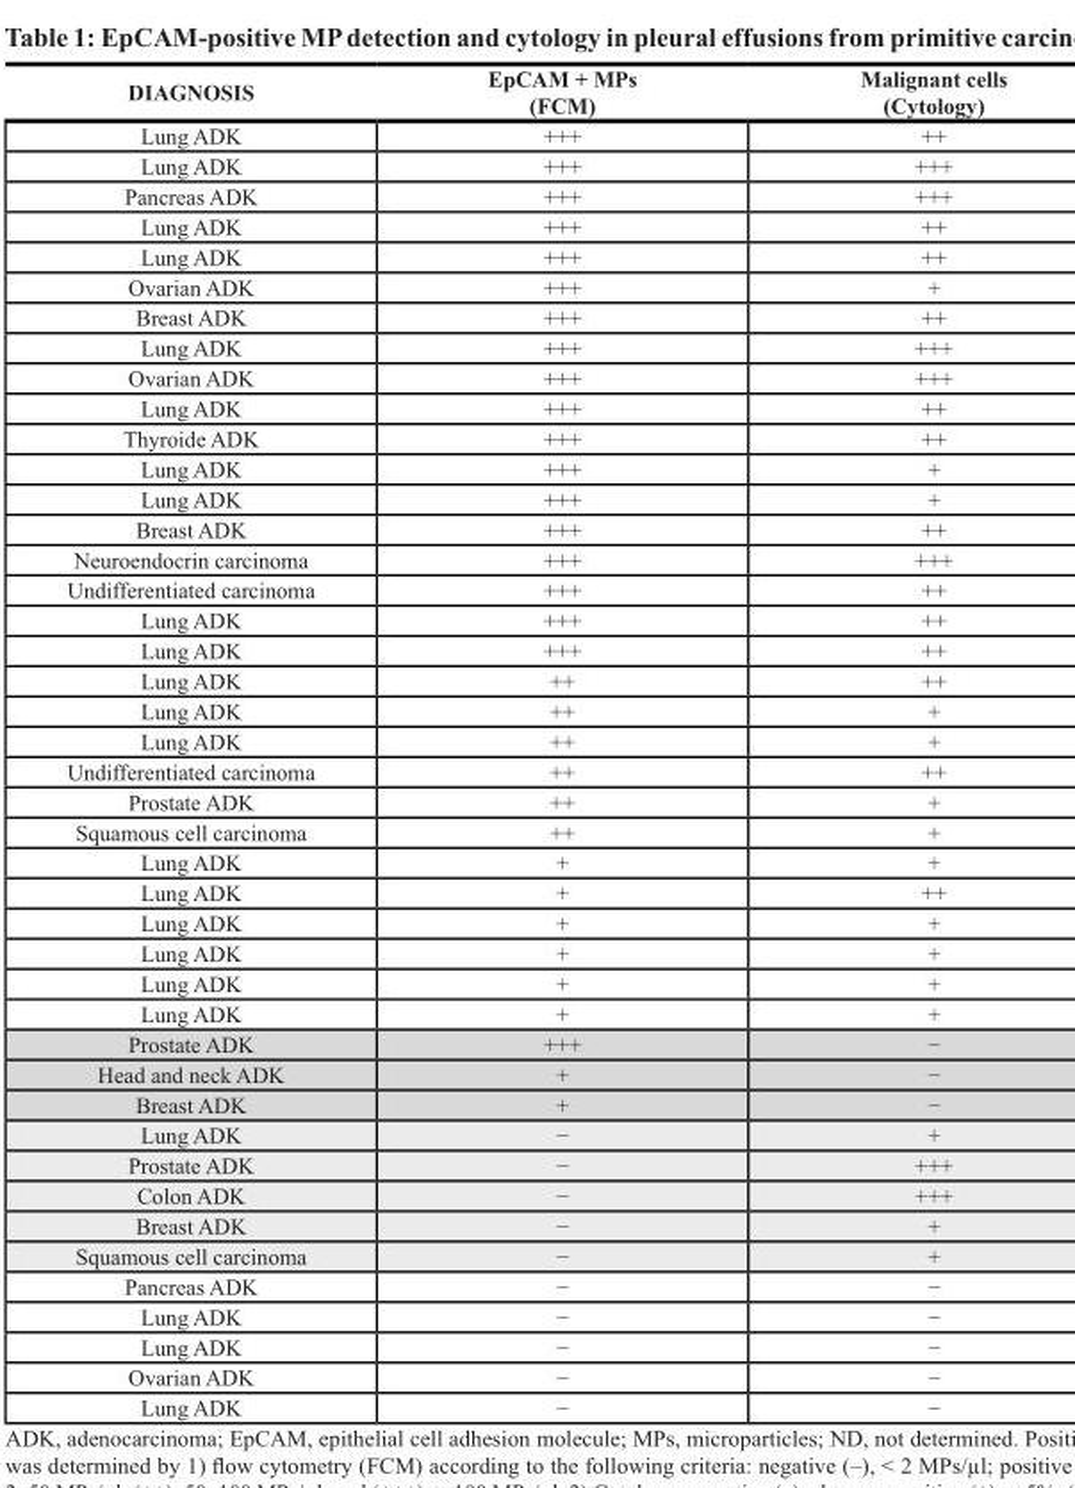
<table><thead><tr><td>DIAGNOSIS</td><td>EpCAM + MPs (FCM)</td><td>Malignant cells (Cytology)</td></tr></thead><tbody><tr><td>Lung ADK</td><td>+++</td><td>++</td></tr><tr><td>Lung ADK</td><td>+++</td><td>+++</td></tr><tr><td>Pancreas ADK</td><td>+++</td><td>+++</td></tr><tr><td>Lung ADK</td><td>+++</td><td>++</td></tr><tr><td>Lung ADK</td><td>+++</td><td>++</td></tr><tr><td>Ovarian ADK</td><td>+++</td><td>+</td></tr><tr><td>Breast ADK</td><td>+++</td><td>++</td></tr><tr><td>Lung ADK</td><td>+++</td><td>+++</td></tr><tr><td>Ovarian ADK</td><td>+++</td><td>+++</td></tr><tr><td>Lung ADK</td><td>+++</td><td>++</td></tr><tr><td>Thyroide ADK</td><td>+++</td><td>++</td></tr><tr><td>Lung ADK</td><td>+++</td><td>+</td></tr><tr><td>Lung ADK</td><td>+++</td><td>+</td></tr><tr><td>Breast ADK</td><td>+++</td><td>++</td></tr><tr><td>Neuroendocrin carcinoma</td><td>+++</td><td>+++</td></tr><tr><td>Undifferentiated carcinoma</td><td>+++</td><td>++</td></tr><tr><td>Lung ADK</td><td>+++</td><td>++</td></tr><tr><td>Lung ADK</td><td>+++</td><td>++</td></tr><tr><td>Lung ADK</td><td>++</td><td>++</td></tr><tr><td>Lung ADK</td><td>++</td><td>+</td></tr><tr><td>Lung ADK</td><td>++</td><td>+</td></tr><tr><td>Undifferentiated carcinoma</td><td>++</td><td>++</td></tr><tr><td>Prostate ADK</td><td>++</td><td>+</td></tr><tr><td>Squamous cell carcinoma</td><td>++</td><td>+</td></tr><tr><td>Lung ADK</td><td>+</td><td>+</td></tr><tr><td>Lung ADK</td><td>+</td><td>++</td></tr><tr><td>Lung ADK</td><td>+</td><td>+</td></tr><tr><td>Lung ADK</td><td>+</td><td>+</td></tr><tr><td>Lung ADK</td><td>+</td><td>+</td></tr><tr><td>Lung ADK</td><td>+</td><td>+</td></tr><tr><td>Prostate ADK</td><td>+++</td><td>−</td></tr><tr><td>Head and neck ADK</td><td>+</td><td>−</td></tr><tr><td>Breast ADK</td><td>+</td><td>−</td></tr><tr><td>Lung ADK</td><td>−</td><td>+</td></tr><tr><td>Prostate ADK</td><td>−</td><td>+++</td></tr><tr><td>Colon ADK</td><td>−</td><td>+++</td></tr><tr><td>Breast ADK</td><td>−</td><td>+</td></tr><tr><td>Squamous cell carcinoma</td><td>−</td><td>+</td></tr><tr><td>Pancreas ADK</td><td>−</td><td>−</td></tr><tr><td>Lung ADK</td><td>−</td><td>−</td></tr><tr><td>Lung ADK</td><td>−</td><td>−</td></tr><tr><td>Ovarian ADK</td><td>−</td><td>−</td></tr><tr><td>Lung ADK</td><td>−</td><td>−</td></tr></tbody></table>